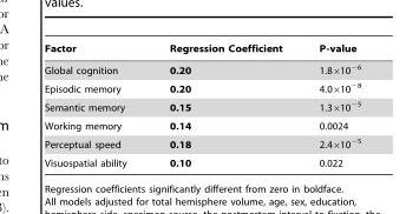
<table><thead><tr><td>Factor</td><td>Regression Coefficient</td><td>P-value</td></tr></thead><tbody><tr><td>Global cognition</td><td>0.20</td><td>1.8×10<sup>−6</sup></td></tr><tr><td>Episodic memory</td><td>0.20</td><td>4.0×10<sup>−8</sup></td></tr><tr><td>Semantic memory</td><td>0.15</td><td>1.3×10<sup>−5</sup></td></tr><tr><td>Working memory</td><td>0.14</td><td>0.0024</td></tr><tr><td>Perceptual speed</td><td>0.18</td><td>2.4×10<sup>−5</sup></td></tr><tr><td>Visuospatial ability</td><td>0.10</td><td>0.022</td></tr></tbody></table>